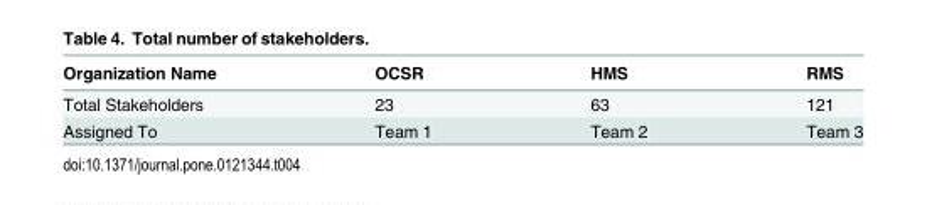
<table><thead><tr><td>Organization Name</td><td>OCSR</td><td>HMS</td><td>RMS</td></tr></thead><tbody><tr><td>Total Stakeholders</td><td>23</td><td>63</td><td>121</td></tr><tr><td>Assigned To</td><td>Team 1</td><td>Team 2</td><td>Team 3</td></tr></tbody></table>